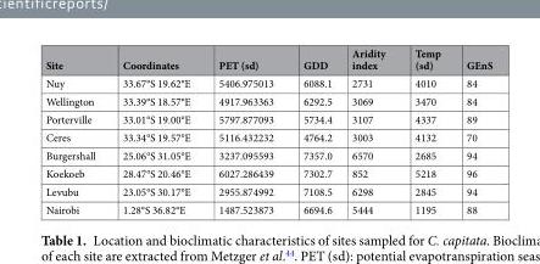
<table><thead><tr><td>Site</td><td>Coordinates</td><td>PET (sd)</td><td>GDD</td><td>Aridity index</td><td>Temp (sd)</td><td>GEnS</td></tr></thead><tbody><tr><td>Nuy</td><td>33.67°S 19.62°E</td><td>5406.975013</td><td>6088.1</td><td>2731</td><td>4010</td><td>84</td></tr><tr><td>Wellington</td><td>33.39°S 18.57°E</td><td>4917.963363</td><td>6292.5</td><td>3069</td><td>3470</td><td>84</td></tr><tr><td>Porterville</td><td>33.01°S 19.00°E</td><td>5797.877093</td><td>5734.4</td><td>3107</td><td>4337</td><td>89</td></tr><tr><td>Ceres</td><td>33.34°S 19.57°E</td><td>5116.432232</td><td>4764.2</td><td>3003</td><td>4132</td><td>70</td></tr><tr><td>Burgershall</td><td>25.06°S 31.05°E</td><td>3237.095593</td><td>7357.0</td><td>6570</td><td>2685</td><td>94</td></tr><tr><td>Koekoeb</td><td>28.47°S 20.46°E</td><td>6027.286439</td><td>7302.7</td><td>852</td><td>5218</td><td>96</td></tr><tr><td>Levubu</td><td>23.05°S 30.17°E</td><td>2955.874992</td><td>7108.5</td><td>6298</td><td>2845</td><td>94</td></tr><tr><td>Nairobi</td><td>1.28°S 36.82°E</td><td>1487.523873</td><td>6694.6</td><td>5444</td><td>1195</td><td>88</td></tr></tbody></table>